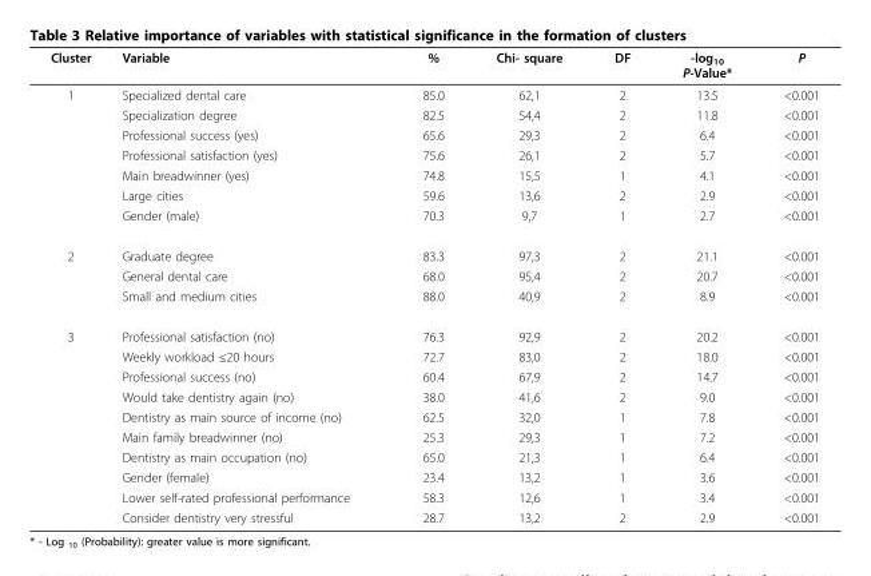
<table><thead><tr><td>Cluster</td><td>Variable</td><td>%</td><td>Chi- square</td><td>DF</td><td>-log<sub>10</sub> P-Value*</td><td>P</td></tr></thead><tbody><tr><td rowspan="7">1</td><td>Specialized dental care</td><td>85.0</td><td>62,1</td><td>2</td><td>13.5</td><td>&lt;0.001</td></tr><tr><td>Specialization degree</td><td>82.5</td><td>54,4</td><td>2</td><td>11.8</td><td>&lt;0.001</td></tr><tr><td>Professional success (yes)</td><td>65.6</td><td>29,3</td><td>2</td><td>6.4</td><td>&lt;0.001</td></tr><tr><td>Professional satisfaction (yes)</td><td>75.6</td><td>26,1</td><td>2</td><td>5.7</td><td>&lt;0.001</td></tr><tr><td>Main breadwinner (yes)</td><td>74.8</td><td>15,5</td><td>1</td><td>4.1</td><td>&lt;0.001</td></tr><tr><td>Large cities</td><td>59.6</td><td>13,6</td><td>2</td><td>2.9</td><td>&lt;0.001</td></tr><tr><td>Gender (male)</td><td>70.3</td><td>9,7</td><td>1</td><td>2.7</td><td>&lt;0.001</td></tr><tr><td rowspan="3">2</td><td>Graduate degree</td><td>83.3</td><td>97,3</td><td>2</td><td>21.1</td><td>&lt;0.001</td></tr><tr><td>General dental care</td><td>68.0</td><td>95,4</td><td>2</td><td>20.7</td><td>&lt;0.001</td></tr><tr><td>Small and medium cities</td><td>88.0</td><td>40,9</td><td>2</td><td>8.9</td><td>&lt;0.001</td></tr><tr><td rowspan="10">3</td><td>Professional satisfaction (no)</td><td>76.3</td><td>92,9</td><td>2</td><td>20.2</td><td>&lt;0.001</td></tr><tr><td>Weekly workload ≤20 hours</td><td>72.7</td><td>83,0</td><td>2</td><td>18.0</td><td>&lt;0.001</td></tr><tr><td>Professional success (no)</td><td>60.4</td><td>67,9</td><td>2</td><td>14.7</td><td>&lt;0.001</td></tr><tr><td>Would take dentistry again (no)</td><td>38.0</td><td>41,6</td><td>2</td><td>9.0</td><td>&lt;0.001</td></tr><tr><td>Dentistry as main source of income (no)</td><td>62.5</td><td>32,0</td><td>1</td><td>7.8</td><td>&lt;0.001</td></tr><tr><td>Main family breadwinner (no)</td><td>25.3</td><td>29,3</td><td>1</td><td>7.2</td><td>&lt;0.001</td></tr><tr><td>Dentistry as main occupation (no)</td><td>65.0</td><td>21,3</td><td>1</td><td>6.4</td><td>&lt;0.001</td></tr><tr><td>Gender (female)</td><td>23.4</td><td>13,2</td><td>1</td><td>3.6</td><td>&lt;0.001</td></tr><tr><td>Lower self-rated professional performance</td><td>58.3</td><td>12,6</td><td>1</td><td>3.4</td><td>&lt;0.001</td></tr><tr><td>Consider dentistry very stressful</td><td>28.7</td><td>13,2</td><td>2</td><td>2.9</td><td>&lt;0.001</td></tr></tbody></table>